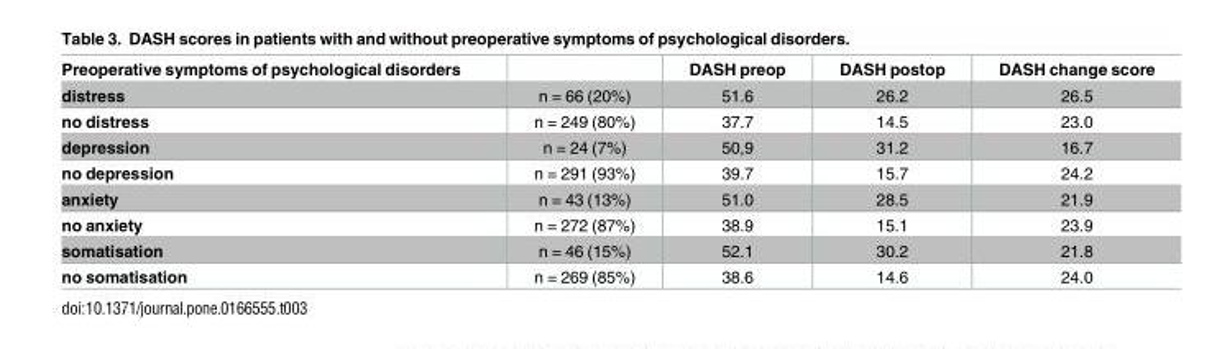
<table><thead><tr><td>Preoperative symptoms of psychological disorders</td><td></td><td>DASH preop</td><td>DASH postop</td><td>DASH change score</td></tr></thead><tbody><tr><td>distress</td><td>n = 66 (20%)</td><td>51.6</td><td>26.2</td><td>26.5</td></tr><tr><td>no distress</td><td>n = 249 (80%)</td><td>37.7</td><td>14.5</td><td>23.0</td></tr><tr><td>depression</td><td>n = 24 (7%)</td><td>50,9</td><td>31.2</td><td>16.7</td></tr><tr><td>no depression</td><td>n = 291 (93%)</td><td>39.7</td><td>15.7</td><td>24.2</td></tr><tr><td>anxiety</td><td>n = 43 (13%)</td><td>51.0</td><td>28.5</td><td>21.9</td></tr><tr><td>no anxiety</td><td>n = 272 (87%)</td><td>38.9</td><td>15.1</td><td>23.9</td></tr><tr><td>somatisation</td><td>n = 46 (15%)</td><td>52.1</td><td>30.2</td><td>21.8</td></tr><tr><td>no somatisation</td><td>n = 269 (85%)</td><td>38.6</td><td>14.6</td><td>24.0</td></tr></tbody></table>